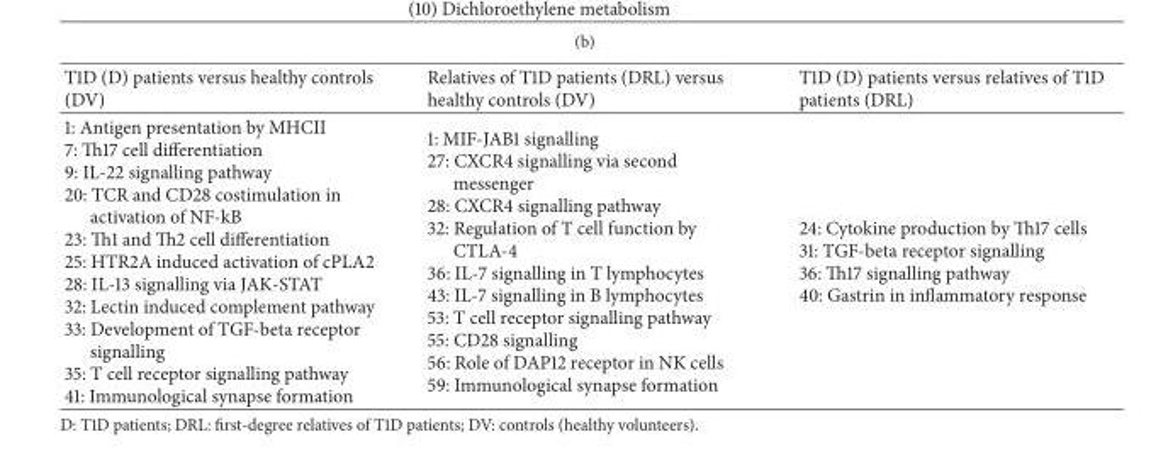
<table><thead><tr><td>T1D (D) patients versus healthy controls (DV)</td><td>Relatives of T1D patients (DRL) versus healthy controls (DV)</td><td>T1D (D) patients versus relatives of T1D patients (DRL)</td></tr></thead><tbody><tr><td>1: Antigen presentation by MHCII 7: Th17 cell differentiation 9: IL-22 signalling pathway 20: TCR and CD28 costimulation in activation of NF-kB 23: Th1 and Th2 cell differentiation 25: HTR2A induced activation of cPLA2 28: IL-13 signalling via JAK-STAT 32: Lectin induced complement pathway 33: Development of TGF-beta receptor signalling 35: T cell receptor signalling pathway 41: Immunological synapse formation</td><td>1: MIF-JAB1 signalling 27: CXCR4 signalling via second messenger 28: CXCR4 signalling pathway 32: Regulation of T cell function by CTLA-4 36: IL-7 signalling in T lymphocytes 43: IL-7 signalling in B lymphocytes 53: T cell receptor signalling pathway 55: CD28 signalling 56: Role of DAP12 receptor in NK cells 59: Immunological synapse formation</td><td>24: Cytokine production by Th17 cells 31: TGF-beta receptor signalling 36: Th17 signalling pathway 40: Gastrin in inflammatory response</td></tr></tbody></table>